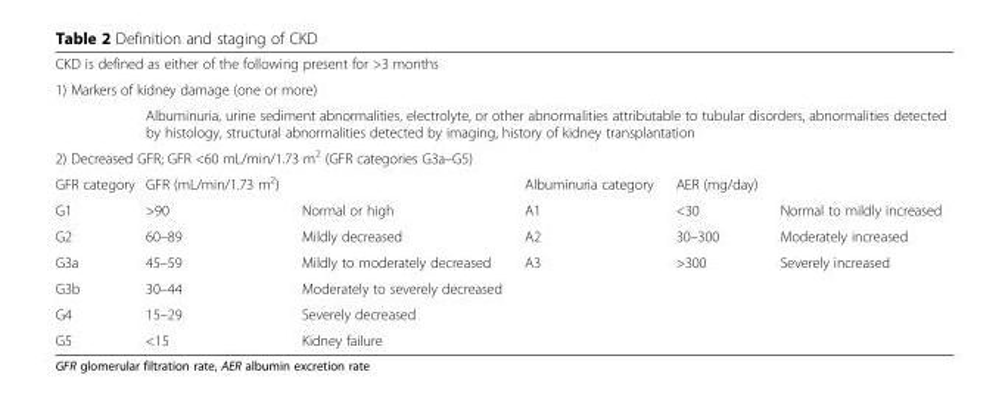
<table><tbody><tr><td colspan="6">CKD is defined as either of the following present for &gt;3 months</td></tr><tr><td colspan="6">1) Markers of kidney damage (one or more)</td></tr><tr><td></td><td colspan="5">Albuminuria, urine sediment abnormalities, electrolyte, or other abnormalities attributable to tubular disorders, abnormalities detected by histology, structural abnormalities detected by imaging, history of kidney transplantation</td></tr><tr><td colspan="6">2) Decreased GFR; GFR &lt;60 mL/min/1.73 m<sup>2</sup> (GFR categories G3a–G5)</td></tr><tr><td>GFR category</td><td>GFR (mL/min/1.73 m<sup>2</sup>)</td><td></td><td>Albuminuria category</td><td>AER (mg/day)</td><td></td></tr><tr><td>G1</td><td>&gt;90</td><td>Normal or high</td><td>A1</td><td>&lt;30</td><td>Normal to mildly increased</td></tr><tr><td>G2</td><td>60–89</td><td>Mildly decreased</td><td>A2</td><td>30–300</td><td>Moderately increased</td></tr><tr><td>G3a</td><td>45–59</td><td>Mildly to moderately decreased</td><td>A3</td><td>&gt;300</td><td>Severely increased</td></tr><tr><td>G3b</td><td>30–44</td><td>Moderately to severely decreased</td><td></td><td></td><td></td></tr><tr><td>G4</td><td>15–29</td><td>Severely decreased</td><td></td><td></td><td></td></tr><tr><td>G5</td><td>&lt;15</td><td>Kidney failure</td><td></td><td></td><td></td></tr></tbody></table>